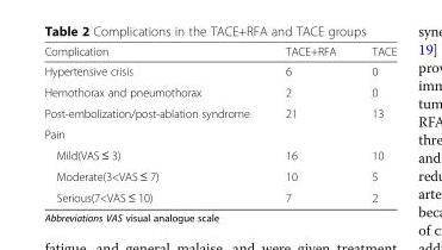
<table><thead><tr><td>Complication</td><td>TACE+RFA</td><td>TACE</td></tr></thead><tbody><tr><td>Hypertensive crisis</td><td>6</td><td>0</td></tr><tr><td>Hemothorax and pneumothorax</td><td>2</td><td>0</td></tr><tr><td>Post-embolization/post-ablation syndrome</td><td>21</td><td>13</td></tr><tr><td colspan="3">Pain</td></tr><tr><td>Mild(VAS ≤ 3)</td><td>16</td><td>10</td></tr><tr><td>Moderate(3&lt;VAS ≤ 7)</td><td>10</td><td>5</td></tr><tr><td>Serious(7&lt;VAS ≤ 10)</td><td>7</td><td>2</td></tr></tbody></table>